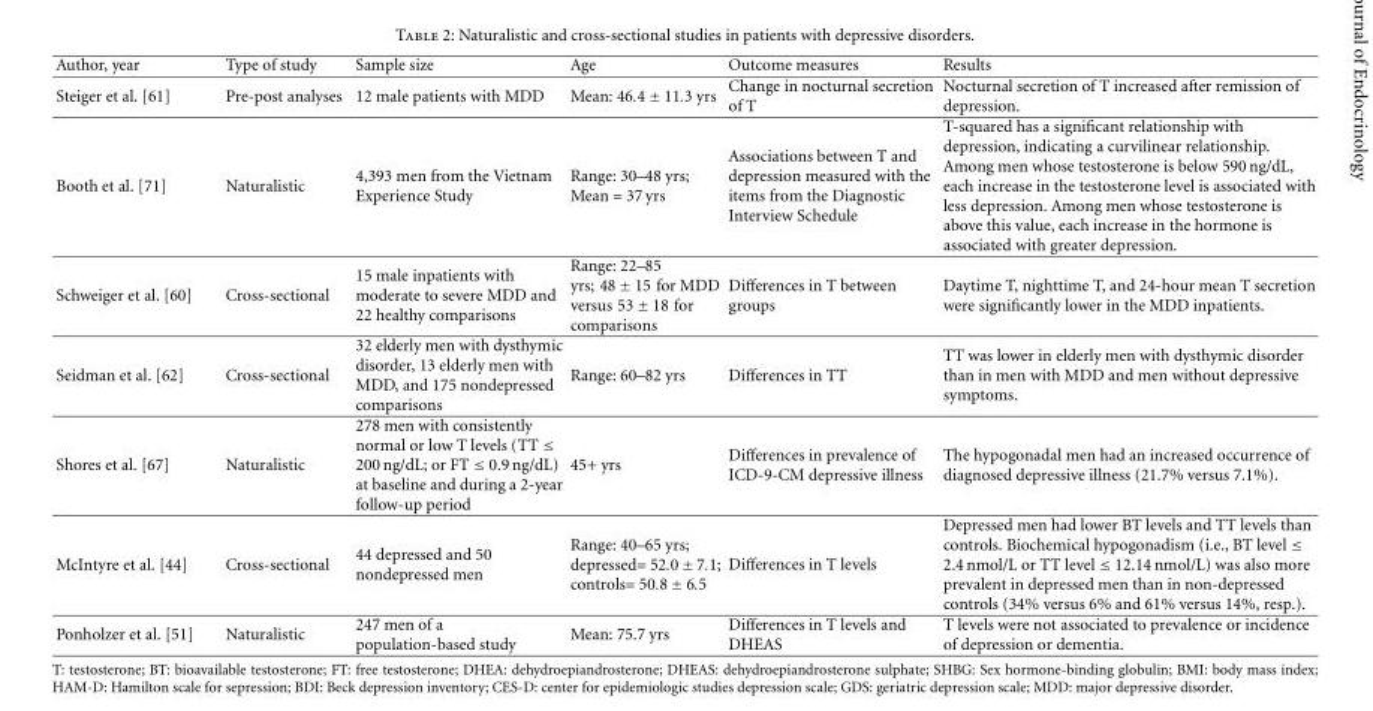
<table><thead><tr><td>Author, year</td><td>Type of study</td><td>Sample size</td><td>Age</td><td>Outcome measures</td><td>Results</td></tr></thead><tbody><tr><td>Steiger et al. [61]</td><td>Pre-post analyses</td><td>12 male patients with MDD</td><td>Mean: 46.4 ± 11.3 yrs</td><td>Change in nocturnal secretion of T</td><td>Nocturnal secretion of T increased after remission of depression.</td></tr><tr><td>Booth et al. [71]</td><td>Naturalistic</td><td>4,393 men from the Vietnam Experience Study</td><td>Range: 30–48 yrs; Mean = 37 yrs</td><td>Associations between T and depression measured with the items from the Diagnostic Interview Schedule</td><td>T-squared has a significant relationship with depression, indicating a curvilinear relationship. Among men whose testosterone is below 590 ng/dL, each increase in the testosterone level is associated with less depression. Among men whose testosterone is above this value, each increase in the hormone is associated with greater depression.</td></tr><tr><td>Schweiger et al. [60]</td><td>Cross-sectional</td><td>15 male inpatients with moderate to severe MDD and 22 healthy comparisons</td><td>Range: 22–85 yrs; 48 ± 15 for MDD versus 53 ± 18 for comparisons</td><td>Differences in T between groups</td><td>Daytime T, nighttime T, and 24-hour mean T secretion were significantly lower in the MDD inpatients.</td></tr><tr><td>Seidman et al. [62]</td><td>Cross-sectional</td><td>32 elderly men with dysthymic disorder, 13 elderly men with MDD, and 175 nondepressed comparisons</td><td>Range: 60–82 yrs</td><td>Differences in TT</td><td>TT was lower in elderly men with dysthymic disorder than in men with MDD and men without depressive symptoms.</td></tr><tr><td>Shores et al. [67]</td><td>Naturalistic</td><td>278 men with consistently normal or low T levels (TT ≤ 200 ng/dL; or FT ≤ 0.9 ng/dL) at baseline and during a 2-year follow-up period</td><td>45+ yrs</td><td>Differences in prevalence of ICD-9-CM depressive illness</td><td>The hypogonadal men had an increased occurrence of diagnosed depressive illness (21.7% versus 7.1%).</td></tr><tr><td>McIntyre et al. [44]</td><td>Cross-sectional</td><td>44 depressed and 50 nondepressed men</td><td>Range: 40–65 yrs; depressed= 52.0 ± 7.1; controls= 50.8 ± 6.5</td><td>Differences in T levels</td><td>Depressed men had lower BT levels and TT levels than controls. Biochemical hypogonadism (i.e., BT level ≤ 2.4 nmol/L or TT level ≤ 12.14 nmol/L) was also more prevalent in depressed men than in non-depressed controls (34% versus 6% and 61% versus 14%, resp.).</td></tr><tr><td>Ponholzer et al. [51]</td><td>Naturalistic</td><td>247 men of a population-based study</td><td>Mean: 75.7 yrs</td><td>Differences in T levels and DHEAS</td><td>T levels were not associated to prevalence or incidence of depression or dementia.</td></tr></tbody></table>